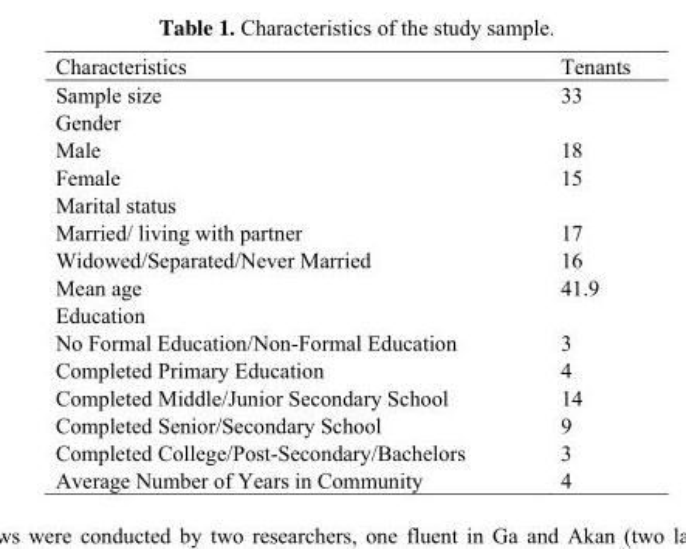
<table><thead><tr><td>Characteristics</td><td>Tenants</td></tr></thead><tbody><tr><td>Sample size</td><td>33</td></tr><tr><td colspan="2">Gender</td></tr><tr><td>Male</td><td>18</td></tr><tr><td>Female</td><td>15</td></tr><tr><td colspan="2">Marital status</td></tr><tr><td>Married/ living with partner</td><td>17</td></tr><tr><td>Widowed/Separated/Never Married</td><td>16</td></tr><tr><td>Mean age</td><td>41.9</td></tr><tr><td colspan="2">Education</td></tr><tr><td>No Formal Education/Non-Formal Education</td><td>3</td></tr><tr><td>Completed Primary Education</td><td>4</td></tr><tr><td>Completed Middle/Junior Secondary School</td><td>14</td></tr><tr><td>Completed Senior/Secondary School</td><td>9</td></tr><tr><td>Completed College/Post-Secondary/Bachelors</td><td>3</td></tr><tr><td>Average Number of Years in Community</td><td>4</td></tr></tbody></table>